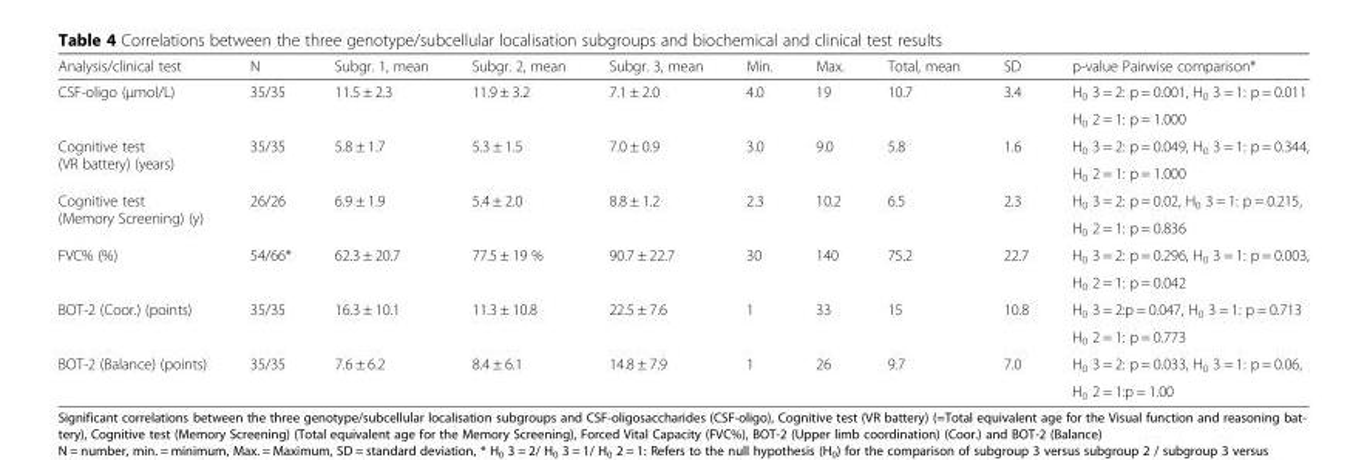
<table><thead><tr><td>Analysis/clinical test</td><td>N</td><td>Subgr. 1, mean</td><td>Subgr. 2, mean</td><td>Subgr. 3, mean</td><td>Min.</td><td>Max.</td><td>Total, mean</td><td>SD</td><td>p-value Pairwise comparison*</td></tr></thead><tbody><tr><td rowspan="2">CSF-oligo (μmol/L)</td><td rowspan="2">35/35</td><td rowspan="2">11.5 ± 2.3</td><td rowspan="2">11.9 ± 3.2</td><td rowspan="2">7.1 ± 2.0</td><td rowspan="2">4.0</td><td rowspan="2">19</td><td rowspan="2">10.7</td><td rowspan="2">3.4</td><td>H<sub>0</sub> 3 = 2: p = 0.001, H<sub>0</sub> 3 = 1: p = 0.011</td></tr><tr><td>H<sub>0</sub> 2 = 1: p = 1.000</td></tr><tr><td rowspan="2">Cognitive test (VR battery) (years)</td><td rowspan="2">35/35</td><td rowspan="2">5.8 ± 1.7</td><td rowspan="2">5.3 ± 1.5</td><td rowspan="2">7.0 ± 0.9</td><td rowspan="2">3.0</td><td rowspan="2">9.0</td><td rowspan="2">5.8</td><td rowspan="2">1.6</td><td>H<sub>0</sub> 3 = 2: p = 0.049, H<sub>0</sub> 3 = 1: p = 0.344,</td></tr><tr><td>H<sub>0</sub> 2 = 1: p = 1.000</td></tr><tr><td rowspan="2">Cognitive test (Memory Screening) (y)</td><td rowspan="2">26/26</td><td rowspan="2">6.9 ± 1.9</td><td rowspan="2">5.4 ± 2.0</td><td rowspan="2">8.8 ± 1.2</td><td rowspan="2">2.3</td><td rowspan="2">10.2</td><td rowspan="2">6.5</td><td rowspan="2">2.3</td><td>H<sub>0</sub> 3 = 2: p = 0.02, H<sub>0</sub> 3 = 1: p = 0.215,</td></tr><tr><td>H<sub>0</sub> 2 = 1: p = 0.836</td></tr><tr><td rowspan="2">FVC% (%)</td><td rowspan="2">54/66*</td><td rowspan="2">62.3 ± 20.7</td><td rowspan="2">77.5 ± 19 %</td><td rowspan="2">90.7 ± 22.7</td><td rowspan="2">30</td><td rowspan="2">140</td><td rowspan="2">75.2</td><td rowspan="2">22.7</td><td>H<sub>0</sub> 3 = 2: p = 0.296, H<sub>0</sub> 3 = 1: p = 0.003,</td></tr><tr><td>H<sub>0</sub> 2 = 1: p = 0.042</td></tr><tr><td rowspan="2">BOT-2 (Coor.) (points)</td><td rowspan="2">35/35</td><td rowspan="2">16.3 ± 10.1</td><td rowspan="2">11.3 ± 10.8</td><td rowspan="2">22.5 ± 7.6</td><td rowspan="2">1</td><td rowspan="2">33</td><td rowspan="2">15</td><td rowspan="2">10.8</td><td>H<sub>0</sub> 3 = 2:p = 0.047, H<sub>0</sub> 3 = 1: p = 0.713</td></tr><tr><td>H<sub>0</sub> 2 = 1: p = 0.773</td></tr><tr><td rowspan="2">BOT-2 (Balance) (points)</td><td rowspan="2">35/35</td><td rowspan="2">7.6 ± 6.2</td><td rowspan="2">8.4 ± 6.1</td><td rowspan="2">14.8 ± 7.9</td><td rowspan="2">1</td><td rowspan="2">26</td><td rowspan="2">9.7</td><td rowspan="2">7.0</td><td>H<sub>0</sub> 3 = 2: p = 0.033, H<sub>0</sub> 3 = 1: p = 0.06,</td></tr><tr><td>H<sub>0</sub> 2 = 1:p = 1.00</td></tr></tbody></table>